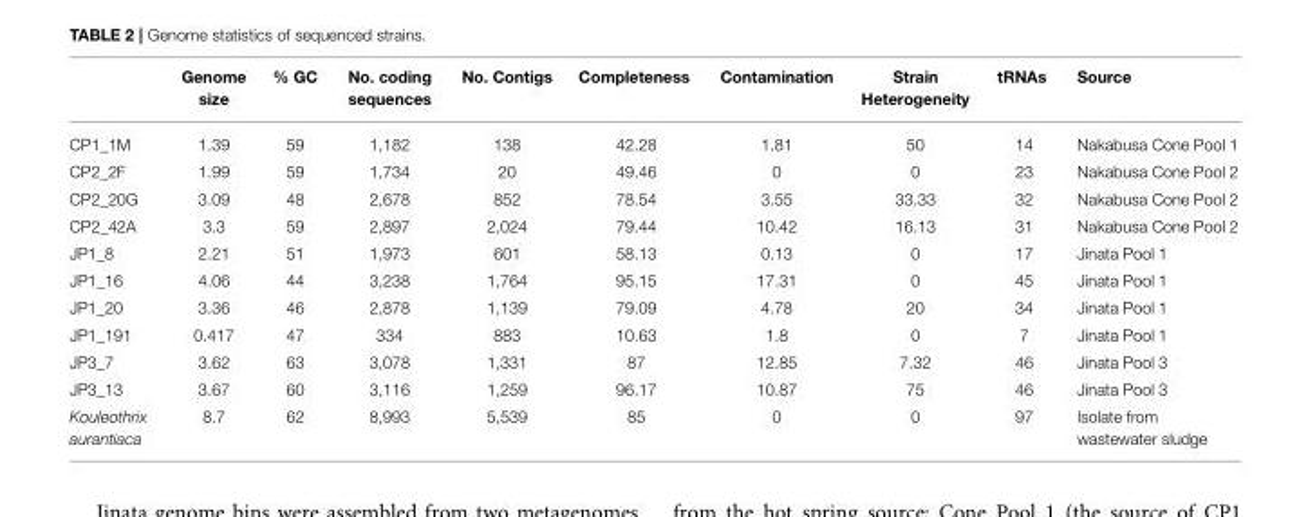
<table><thead><tr><td></td><td>Genome size</td><td>% GC</td><td>No. coding sequences</td><td>No. Contigs</td><td>Completeness</td><td>Contamination</td><td>Strain Heterogeneity</td><td>tRNAs</td><td>Source</td></tr></thead><tbody><tr><td>CP1_1M</td><td>1.39</td><td>59</td><td>1,182</td><td>138</td><td>42.28</td><td>1.81</td><td>50</td><td>14</td><td>Nakabusa Cone Pool 1</td></tr><tr><td>CP2_2F</td><td>1.99</td><td>59</td><td>1,734</td><td>20</td><td>49.46</td><td>0</td><td>0</td><td>23</td><td>Nakabusa Cone Pool 2</td></tr><tr><td>CP2_20G</td><td>3.09</td><td>48</td><td>2,678</td><td>852</td><td>78.54</td><td>3.55</td><td>33.33</td><td>32</td><td>Nakabusa Cone Pool 2</td></tr><tr><td>CP2_42A</td><td>3.3</td><td>59</td><td>2,897</td><td>2,024</td><td>79.44</td><td>10.42</td><td>16.13</td><td>31</td><td>Nakabusa Cone Pool 2</td></tr><tr><td>JP1_8</td><td>2.21</td><td>51</td><td>1,973</td><td>601</td><td>58.13</td><td>0.13</td><td>0</td><td>17</td><td>Jinata Pool 1</td></tr><tr><td>JP1_16</td><td>4.06</td><td>44</td><td>3,238</td><td>1,764</td><td>95.15</td><td>17.31</td><td>0</td><td>45</td><td>Jinata Pool 1</td></tr><tr><td>JP1_20</td><td>3.36</td><td>46</td><td>2,878</td><td>1,139</td><td>79.09</td><td>4.78</td><td>20</td><td>34</td><td>Jinata Pool 1</td></tr><tr><td>JP1_191</td><td>0.417</td><td>47</td><td>334</td><td>883</td><td>10.63</td><td>1.8</td><td>0</td><td>7</td><td>Jinata Pool 1</td></tr><tr><td>JP3_7</td><td>3.62</td><td>63</td><td>3,078</td><td>1,331</td><td>87</td><td>12.85</td><td>7.32</td><td>46</td><td>Jinata Pool 3</td></tr><tr><td>JP3_13</td><td>3.67</td><td>60</td><td>3,116</td><td>1,259</td><td>96.17</td><td>10.87</td><td>75</td><td>46</td><td>Jinata Pool 3</td></tr><tr><td>Kouleothrix aurantiaca</td><td>8.7</td><td>62</td><td>8,993</td><td>5,539</td><td>85</td><td>0</td><td>0</td><td>97</td><td>Isolate from wastewater sludge</td></tr></tbody></table>